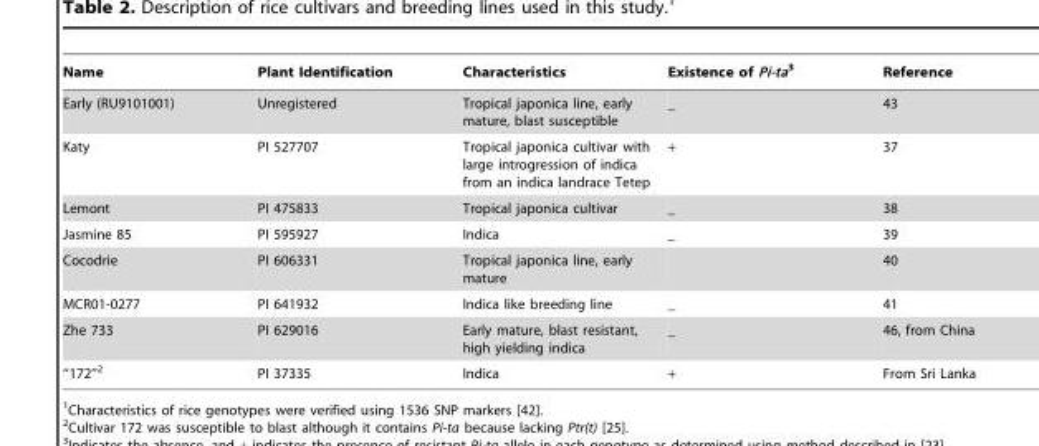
<table><thead><tr><td>Name</td><td>Plant Identification</td><td>Characteristics</td><td>Existence of Pi-ta3</td><td>Reference</td></tr></thead><tbody><tr><td>Early (RU9101001)</td><td>Unregistered</td><td>Tropical japonica line, early mature, blast susceptible</td><td>_</td><td>43</td></tr><tr><td>Katy</td><td>PI 527707</td><td>Tropical japonica cultivar with large introgression of indica from an indica landrace Tetep</td><td>+</td><td>37</td></tr><tr><td>Lemont</td><td>PI 475833</td><td>Tropical japonica cultivar</td><td>_</td><td>38</td></tr><tr><td>Jasmine 85</td><td>PI 595927</td><td>Indica</td><td>_</td><td>39</td></tr><tr><td>Cocodrie</td><td>PI 606331</td><td>Tropical japonica line, early mature</td><td></td><td>40</td></tr><tr><td>MCR01-0277</td><td>PI 641932</td><td>Indica like breeding line</td><td>_</td><td>41</td></tr><tr><td>Zhe 733</td><td>PI 629016</td><td>Early mature, blast resistant, high yielding indica</td><td>_</td><td>46, from China</td></tr><tr><td>‘‘172’’2</td><td>PI 37335</td><td>Indica</td><td>+</td><td>From Sri Lanka</td></tr></tbody></table>